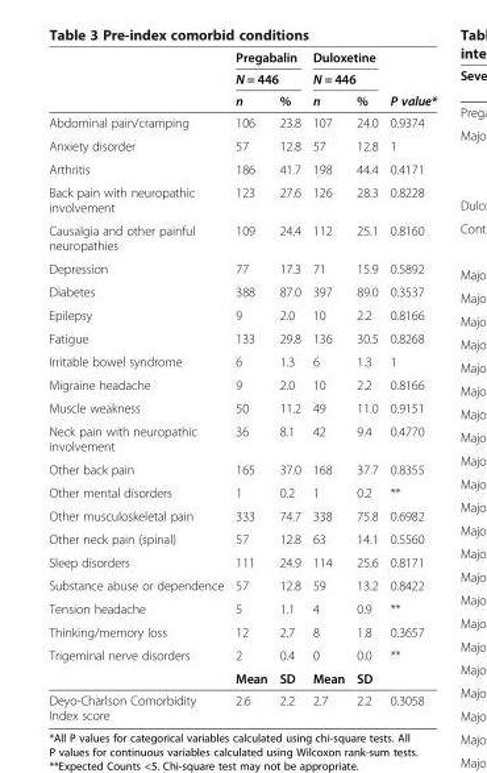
<table><thead><tr><td rowspan="3"></td><td rowspan="2" colspan="2">Pregabalin N = 446</td><td rowspan="2" colspan="2">Duloxetine N = 446</td><td rowspan="3">P value*</td></tr><tr></tr><tr><td>n</td><td>%</td><td>n</td><td>%</td></tr></thead><tbody><tr><td>Abdominal pain/cramping</td><td>106</td><td>23.8</td><td>107</td><td>24.0</td><td>0.9374</td></tr><tr><td>Anxiety disorder</td><td>57</td><td>12.8</td><td>57</td><td>12.8</td><td>1</td></tr><tr><td>Arthritis</td><td>186</td><td>41.7</td><td>198</td><td>44.4</td><td>0.4171</td></tr><tr><td>Back pain with neuropathic involvement</td><td>123</td><td>27.6</td><td>126</td><td>28.3</td><td>0.8228</td></tr><tr><td>Causalgia and other painful neuropathies</td><td>109</td><td>24.4</td><td>112</td><td>25.1</td><td>0.8160</td></tr><tr><td>Depression</td><td>77</td><td>17.3</td><td>71</td><td>15.9</td><td>0.5892</td></tr><tr><td>Diabetes</td><td>388</td><td>87.0</td><td>397</td><td>89.0</td><td>0.3537</td></tr><tr><td>Epilepsy</td><td>9</td><td>2.0</td><td>10</td><td>2.2</td><td>0.8166</td></tr><tr><td>Fatigue</td><td>133</td><td>29.8</td><td>136</td><td>30.5</td><td>0.8268</td></tr><tr><td>Irritable bowel syndrome</td><td>6</td><td>1.3</td><td>6</td><td>1.3</td><td>1</td></tr><tr><td>Migraine headache</td><td>9</td><td>2.0</td><td>10</td><td>2.2</td><td>0.8166</td></tr><tr><td>Muscle weakness</td><td>50</td><td>11.2</td><td>49</td><td>11.0</td><td>0.9151</td></tr><tr><td>Neck pain with neuropathic involvement</td><td>36</td><td>8.1</td><td>42</td><td>9.4</td><td>0.4770</td></tr><tr><td>Other back pain</td><td>165</td><td>37.0</td><td>168</td><td>37.7</td><td>0.8355</td></tr><tr><td>Other mental disorders</td><td>1</td><td>0.2</td><td>1</td><td>0.2</td><td>**</td></tr><tr><td>Other musculoskeletal pain</td><td>333</td><td>74.7</td><td>338</td><td>75.8</td><td>0.6982</td></tr><tr><td>Other neck pain (spinal)</td><td>57</td><td>12.8</td><td>63</td><td>14.1</td><td>0.5560</td></tr><tr><td>Sleep disorders</td><td>111</td><td>24.9</td><td>114</td><td>25.6</td><td>0.8171</td></tr><tr><td>Substance abuse or dependence</td><td>57</td><td>12.8</td><td>59</td><td>13.2</td><td>0.8422</td></tr><tr><td>Tension headache</td><td>5</td><td>1.1</td><td>4</td><td>0.9</td><td>**</td></tr><tr><td>Thinking/memory loss</td><td>12</td><td>2.7</td><td>8</td><td>1.8</td><td>0.3657</td></tr><tr><td rowspan="2">Trigeminal nerve disorders</td><td>2</td><td>0.4</td><td>0</td><td>0.0</td><td>**</td></tr><tr><td>Mean</td><td>SD</td><td>Mean</td><td>SD</td><td></td></tr><tr><td>Deyo-Charlson Comorbidity Index score</td><td>2.6</td><td>2.2</td><td>2.7</td><td>2.2</td><td>0.3058</td></tr></tbody></table>